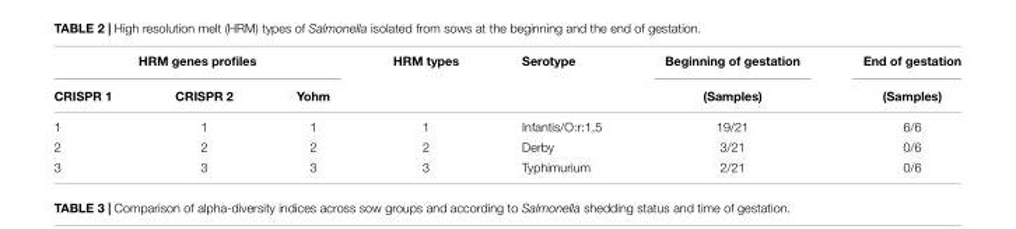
<table><thead><tr><td colspan="3">HRM genes profiles</td><td rowspan="2">HRM types</td><td rowspan="2">Serotype</td><td rowspan="2">Beginning of gestation (Samples)</td><td rowspan="2">End of gestation (Samples)</td></tr><tr><td>CRISPR 1</td><td>CRISPR 2</td><td>Yohm</td></tr></thead><tbody><tr><td>1</td><td>1</td><td>1</td><td>1</td><td>Infantis/O:r:1,5</td><td>19/21</td><td>6/6</td></tr><tr><td>2</td><td>2</td><td>2</td><td>2</td><td>Derby</td><td>3/21</td><td>0/6</td></tr><tr><td>3</td><td>3</td><td>3</td><td>3</td><td>Typhimurium</td><td>2/21</td><td>0/6</td></tr></tbody></table>